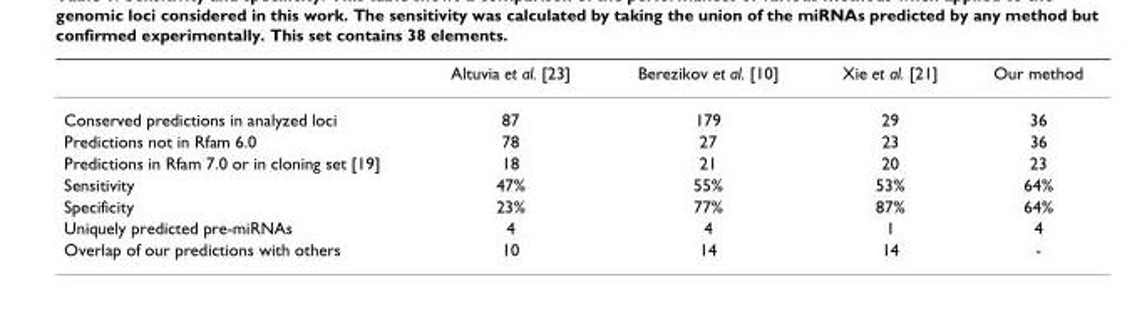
<table><thead><tr><td></td><td>Altuvia et al. [23]</td><td>Berezikov et al. [10]</td><td>Xie et al. [21]</td><td>Our method</td></tr></thead><tbody><tr><td>Conserved predictions in analyzed loci</td><td>87</td><td>179</td><td>29</td><td>36</td></tr><tr><td>Predictions not in Rfam 6.0</td><td>78</td><td>27</td><td>23</td><td>36</td></tr><tr><td>Predictions in Rfam 7.0 or in cloning set [19]</td><td>18</td><td>21</td><td>20</td><td>23</td></tr><tr><td>Sensitivity</td><td>47%</td><td>55%</td><td>53%</td><td>64%</td></tr><tr><td>Specificity</td><td>23%</td><td>77%</td><td>87%</td><td>64%</td></tr><tr><td>Uniquely predicted pre-miRNAs</td><td>4</td><td>4</td><td>1</td><td>4</td></tr><tr><td>Overlap of our predictions with others</td><td>10</td><td>14</td><td>14</td><td>-</td></tr></tbody></table>